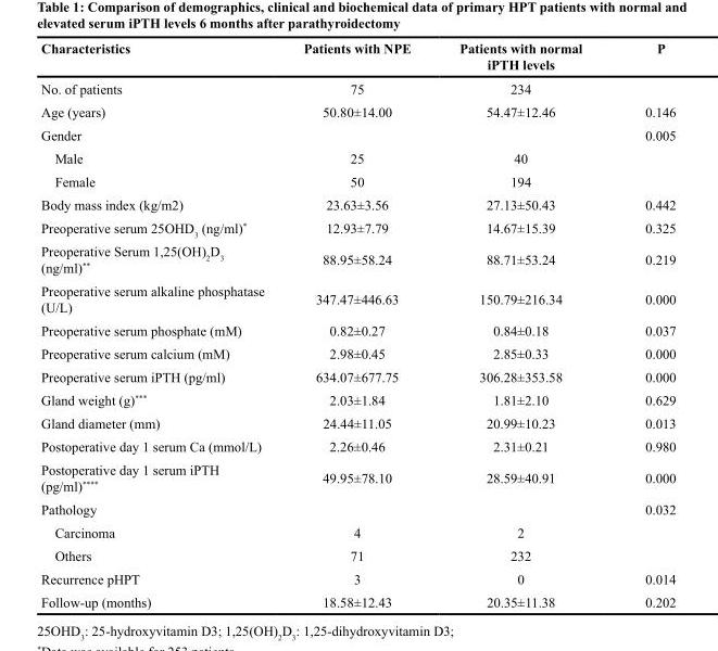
<table><thead><tr><td>Characteristics</td><td>Patients with NPE</td><td>Patients with normal iPTH levels</td><td>P</td></tr></thead><tbody><tr><td>No. of patients</td><td>75</td><td>234</td><td></td></tr><tr><td>Age (years)</td><td>50.80±14.00</td><td>54.47±12.46</td><td>0.146</td></tr><tr><td>Gender</td><td></td><td></td><td>0.005</td></tr><tr><td>Male</td><td>25</td><td>40</td><td></td></tr><tr><td>Female</td><td>50</td><td>194</td><td></td></tr><tr><td>Body mass index (kg/m2)</td><td>23.63±3.56</td><td>27.13±50.43</td><td>0.442</td></tr><tr><td>Preoperative serum 25OHD<sub>3</sub> (ng/ml)*</td><td>12.93±7.79</td><td>14.67±15.39</td><td>0.325</td></tr><tr><td>Preoperative Serum 1,25(OH)<sub>2</sub>D<sub>3</sub> (ng/ml)**</td><td>88.95±58.24</td><td>88.71±53.24</td><td>0.219</td></tr><tr><td>Preoperative serum alkaline phosphatase (U/L)</td><td>347.47±446.63</td><td>150.79±216.34</td><td>0.000</td></tr><tr><td>Preoperative serum phosphate (mM)</td><td>0.82±0.27</td><td>0.84±0.18</td><td>0.037</td></tr><tr><td>Preoperative serum calcium (mM)</td><td>2.98±0.45</td><td>2.85±0.33</td><td>0.000</td></tr><tr><td>Preoperative serum iPTH (pg/ml)</td><td>634.07±677.75</td><td>306.28±353.58</td><td>0.000</td></tr><tr><td>Gland weight (g)***</td><td>2.03±1.84</td><td>1.81±2.10</td><td>0.629</td></tr><tr><td>Gland diameter (mm)</td><td>24.44±11.05</td><td>20.99±10.23</td><td>0.013</td></tr><tr><td>Postoperative day 1 serum Ca (mmol/L)</td><td>2.26±0.46</td><td>2.31±0.21</td><td>0.980</td></tr><tr><td>Postoperative day 1 serum iPTH (pg/ml)****</td><td>49.95±78.10</td><td>28.59±40.91</td><td>0.000</td></tr><tr><td>Pathology</td><td></td><td></td><td>0.032</td></tr><tr><td>Carcinoma</td><td>4</td><td>2</td><td></td></tr><tr><td>Others</td><td>71</td><td>232</td><td></td></tr><tr><td>Recurrence pHPT</td><td>3</td><td>0</td><td>0.014</td></tr><tr><td>Follow-up (months)</td><td>18.58±12.43</td><td>20.35±11.38</td><td>0.202</td></tr></tbody></table>